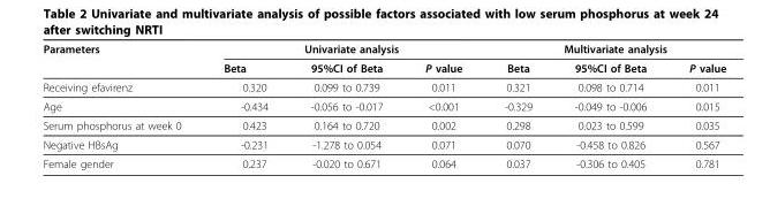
<table><thead><tr><td rowspan="2">Parameters</td><td colspan="3">Univariate analysis</td><td colspan="3">Multivariate analysis</td></tr><tr><td>Beta</td><td>95%CI of Beta</td><td>P value</td><td>Beta</td><td>95%CI of Beta</td><td>P value</td></tr></thead><tbody><tr><td>Receiving efavirenz</td><td>0.320</td><td>0.099 to 0.739</td><td>0.011</td><td>0.321</td><td>0.098 to 0.714</td><td>0.011</td></tr><tr><td>Age</td><td>-0.434</td><td>-0.056 to -0.017</td><td>&lt;0.001</td><td>-0.329</td><td>-0.049 to -0.006</td><td>0.015</td></tr><tr><td>Serum phosphorus at week 0</td><td>0.423</td><td>0.164 to 0.720</td><td>0.002</td><td>0.298</td><td>0.023 to 0.599</td><td>0.035</td></tr><tr><td>Negative HBsAg</td><td>-0.231</td><td>-1.278 to 0.054</td><td>0.071</td><td>0.070</td><td>-0.458 to 0.826</td><td>0.567</td></tr><tr><td>Female gender</td><td>0.237</td><td>-0.020 to 0.671</td><td>0.064</td><td>0.037</td><td>-0.306 to 0.405</td><td>0.781</td></tr></tbody></table>